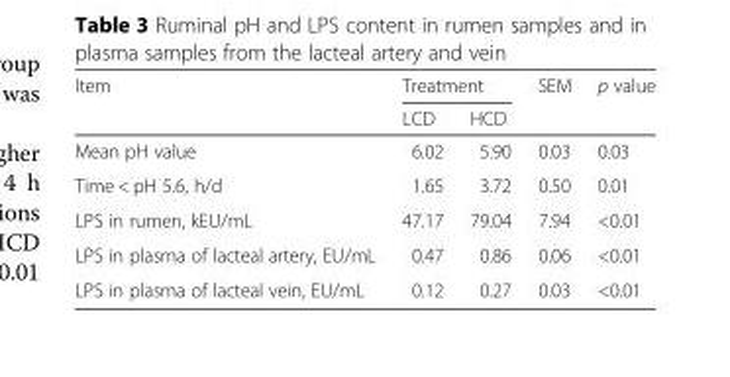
<table><thead><tr><td rowspan="2">Item</td><td colspan="2">Treatment</td><td rowspan="2">SEM</td><td rowspan="2">p value</td></tr><tr><td>LCD</td><td>HCD</td></tr></thead><tbody><tr><td>Mean pH value</td><td>6.02</td><td>5.90</td><td>0.03</td><td>0.03</td></tr><tr><td>Time &lt; pH 5.6, h/d</td><td>1.65</td><td>3.72</td><td>0.50</td><td>0.01</td></tr><tr><td>LPS in rumen, kEU/mL</td><td>47.17</td><td>79.04</td><td>7.94</td><td>&lt;0.01</td></tr><tr><td>LPS in plasma of lacteal artery, EU/mL</td><td>0.47</td><td>0.86</td><td>0.06</td><td>&lt;0.01</td></tr><tr><td>LPS in plasma of lacteal vein, EU/mL</td><td>0.12</td><td>0.27</td><td>0.03</td><td>&lt;0.01</td></tr></tbody></table>